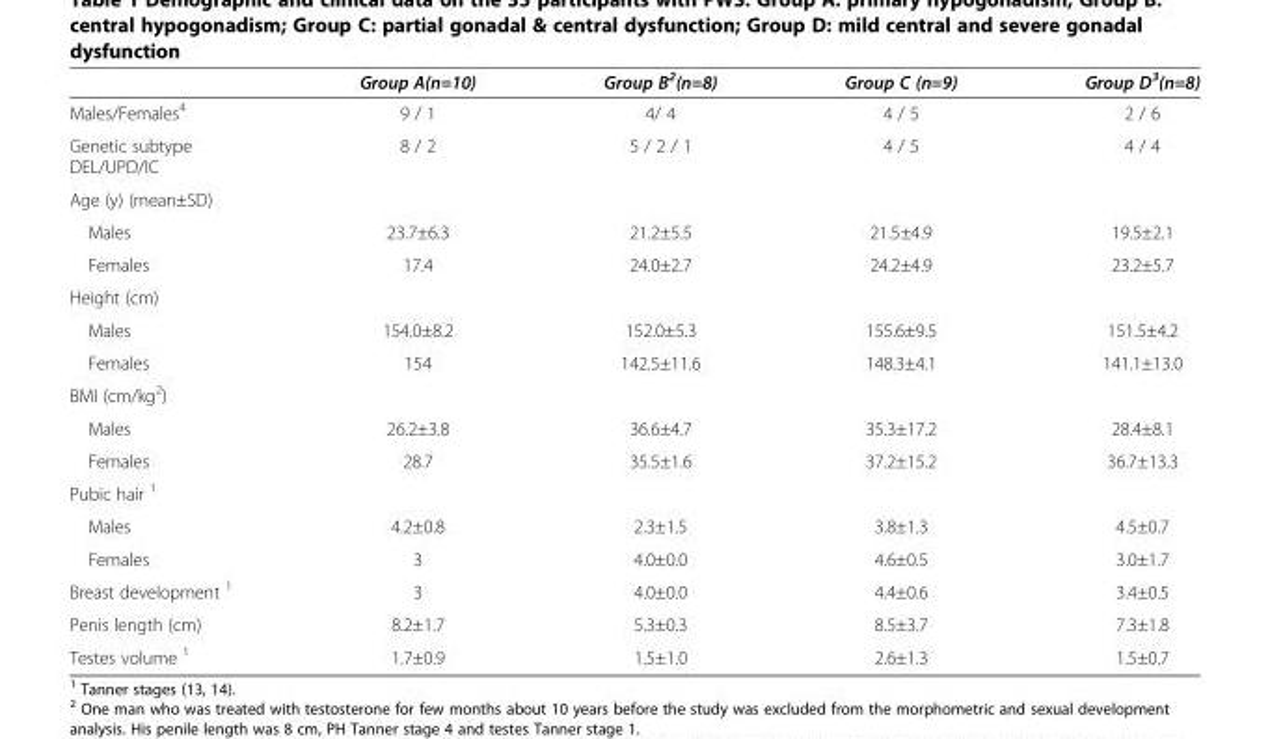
<table><thead><tr><td></td><td>Group A(n=10)</td><td>Group B<sup>2</sup>(n=8)</td><td>Group C (n=9)</td><td>Group D<sup>3</sup>(n=8)</td></tr></thead><tbody><tr><td>Males/Females<sup>4</sup></td><td>9 / 1</td><td>4/ 4</td><td>4 / 5</td><td>2 / 6</td></tr><tr><td>Genetic subtype DEL/UPD/IC</td><td>8 / 2</td><td>5 / 2 / 1</td><td>4 / 5</td><td>4 / 4</td></tr><tr><td colspan="5">Age (y) (mean±SD)</td></tr><tr><td>Males</td><td>23.7±6.3</td><td>21.2±5.5</td><td>21.5±4.9</td><td>19.5±2.1</td></tr><tr><td>Females</td><td>17.4</td><td>24.0±2.7</td><td>24.2±4.9</td><td>23.2±5.7</td></tr><tr><td colspan="5">Height (cm)</td></tr><tr><td>Males</td><td>154.0±8.2</td><td>152.0±5.3</td><td>155.6±9.5</td><td>151.5±4.2</td></tr><tr><td>Females</td><td>154</td><td>142.5±11.6</td><td>148.3±4.1</td><td>141.1±13.0</td></tr><tr><td colspan="5">BMI (cm/kg<sup>2</sup>)</td></tr><tr><td>Males</td><td>26.2±3.8</td><td>36.6±4.7</td><td>35.3±17.2</td><td>28.4±8.1</td></tr><tr><td>Females</td><td>28.7</td><td>35.5±1.6</td><td>37.2±15.2</td><td>36.7±13.3</td></tr><tr><td colspan="5">Pubic hair <sup>1</sup></td></tr><tr><td>Males</td><td>4.2±0.8</td><td>2.3±1.5</td><td>3.8±1.3</td><td>4.5±0.7</td></tr><tr><td>Females</td><td>3</td><td>4.0±0.0</td><td>4.6±0.5</td><td>3.0±1.7</td></tr><tr><td>Breast development <sup>1</sup></td><td>3</td><td>4.0±0.0</td><td>4.4±0.6</td><td>3.4±0.5</td></tr><tr><td>Penis length (cm)</td><td>8.2±1.7</td><td>5.3±0.3</td><td>8.5±3.7</td><td>7.3±1.8</td></tr><tr><td>Testes volume <sup>1</sup></td><td>1.7±0.9</td><td>1.5±1.0</td><td>2.6±1.3</td><td>1.5±0.7</td></tr></tbody></table>